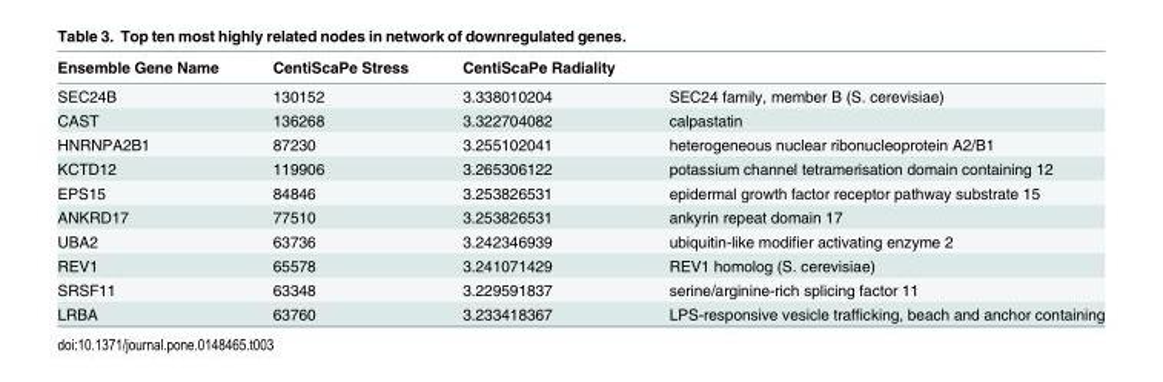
<table><thead><tr><td>Ensemble Gene Name</td><td>CentiScaPe Stress</td><td>CentiScaPe Radiality</td><td></td></tr></thead><tbody><tr><td>SEC24B</td><td>130152</td><td>3.338010204</td><td>SEC24 family, member B (S. cerevisiae)</td></tr><tr><td>CAST</td><td>136268</td><td>3.322704082</td><td>calpastatin</td></tr><tr><td>HNRNPA2B1</td><td>87230</td><td>3.255102041</td><td>heterogeneous nuclear ribonucleoprotein A2/B1</td></tr><tr><td>KCTD12</td><td>119906</td><td>3.265306122</td><td>potassium channel tetramerisation domain containing 12</td></tr><tr><td>EPS15</td><td>84846</td><td>3.253826531</td><td>epidermal growth factor receptor pathway substrate 15</td></tr><tr><td>ANKRD17</td><td>77510</td><td>3.253826531</td><td>ankyrin repeat domain 17</td></tr><tr><td>UBA2</td><td>63736</td><td>3.242346939</td><td>ubiquitin-like modifier activating enzyme 2</td></tr><tr><td>REV1</td><td>65578</td><td>3.241071429</td><td>REV1 homolog (S. cerevisiae)</td></tr><tr><td>SRSF11</td><td>63348</td><td>3.229591837</td><td>serine/arginine-rich splicing factor 11</td></tr><tr><td>LRBA</td><td>63760</td><td>3.233418367</td><td>LPS-responsive vesicle trafficking, beach and anchor containing</td></tr></tbody></table>